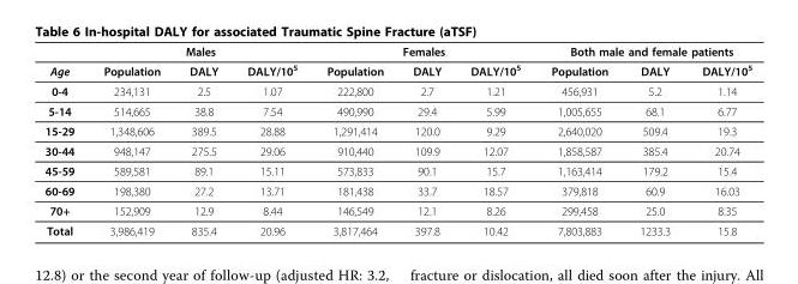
<table><thead><tr><td rowspan="2">Age</td><td colspan="3">Males</td><td colspan="3">Females</td><td colspan="3">Both male and female patients</td></tr><tr><td>Population</td><td>DALY</td><td>DALY/105</td><td>Population</td><td>DALY</td><td>DALY/105</td><td>Population</td><td>DALY</td><td>DALY/105</td></tr></thead><tbody><tr><td>0-4</td><td>234,131</td><td>2.5</td><td>1.07</td><td>222,800</td><td>2.7</td><td>1.21</td><td>456,931</td><td>5.2</td><td>1.14</td></tr><tr><td>5-14</td><td>514,665</td><td>38.8</td><td>7.54</td><td>490,990</td><td>29.4</td><td>5.99</td><td>1,005,655</td><td>68.1</td><td>6.77</td></tr><tr><td>15-29</td><td>1,348,606</td><td>389.5</td><td>28.88</td><td>1,291,414</td><td>120.0</td><td>9.29</td><td>2,640,020</td><td>509.4</td><td>19.3</td></tr><tr><td>30-44</td><td>948,147</td><td>275.5</td><td>29.06</td><td>910,440</td><td>109.9</td><td>12.07</td><td>1,858,587</td><td>385.4</td><td>20.74</td></tr><tr><td>45-59</td><td>589,581</td><td>89.1</td><td>15.11</td><td>573,833</td><td>90.1</td><td>15.7</td><td>1,163,414</td><td>179.2</td><td>15.4</td></tr><tr><td>60-69</td><td>198,380</td><td>27.2</td><td>13.71</td><td>181,438</td><td>33.7</td><td>18.57</td><td>379,818</td><td>60.9</td><td>16.03</td></tr><tr><td>70+</td><td>152,909</td><td>12.9</td><td>8.44</td><td>146,549</td><td>12.1</td><td>8.26</td><td>299,458</td><td>25.0</td><td>8.35</td></tr><tr><td>Total</td><td>3,986,419</td><td>835.4</td><td>20.96</td><td>3,817,464</td><td>397.8</td><td>10.42</td><td>7,803,883</td><td>1233.3</td><td>15.8</td></tr></tbody></table>